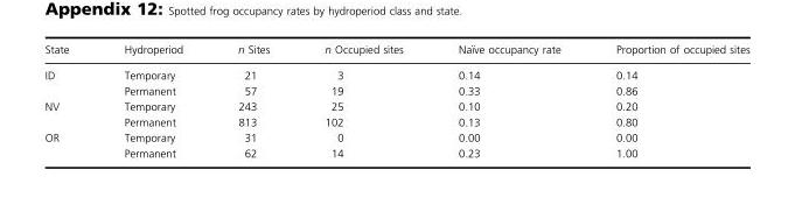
<table><thead><tr><td>State</td><td>Hydroperiod</td><td>n Sites</td><td>n Occupied sites</td><td>Na€ıve occupancy rate</td><td>Proportion of occupied sites</td></tr></thead><tbody><tr><td rowspan="2">ID</td><td>Temporary</td><td>21</td><td>3</td><td>0.14</td><td>0.14</td></tr><tr><td>Permanent</td><td>57</td><td>19</td><td>0.33</td><td>0.86</td></tr><tr><td rowspan="2">NV</td><td>Temporary</td><td>243</td><td>25</td><td>0.10</td><td>0.20</td></tr><tr><td>Permanent</td><td>813</td><td>102</td><td>0.13</td><td>0.80</td></tr><tr><td rowspan="2">OR</td><td>Temporary</td><td>31</td><td>0</td><td>0.00</td><td>0.00</td></tr><tr><td>Permanent</td><td>62</td><td>14</td><td>0.23</td><td>1.00</td></tr></tbody></table>